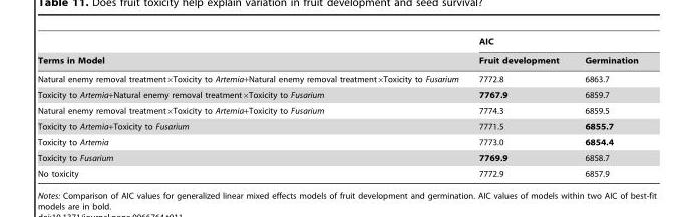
<table><thead><tr><td rowspan="2">Terms in Model</td><td colspan="2">AIC</td></tr><tr><td>Fruit development</td><td>Germination</td></tr></thead><tbody><tr><td>Natural enemy removal treatment×Toxicity to Artemia+Natural enemy removal treatment×Toxicity to Fusarium</td><td>7772.8</td><td>6863.7</td></tr><tr><td>Toxicity to Artemia+Natural enemy removal treatment×Toxicity to Fusarium</td><td>7767.9</td><td>6859.7</td></tr><tr><td>Natural enemy removal treatment×Toxicity to Artemia+Toxicity to Fusarium</td><td>7774.3</td><td>6859.5</td></tr><tr><td>Toxicity to Artemia+Toxicity to Fusarium</td><td>7771.5</td><td>6855.7</td></tr><tr><td>Toxicity to Artemia</td><td>7773.0</td><td>6854.4</td></tr><tr><td>Toxicity to Fusarium</td><td>7769.9</td><td>6858.7</td></tr><tr><td>No toxicity</td><td>7772.9</td><td>6857.9</td></tr></tbody></table>